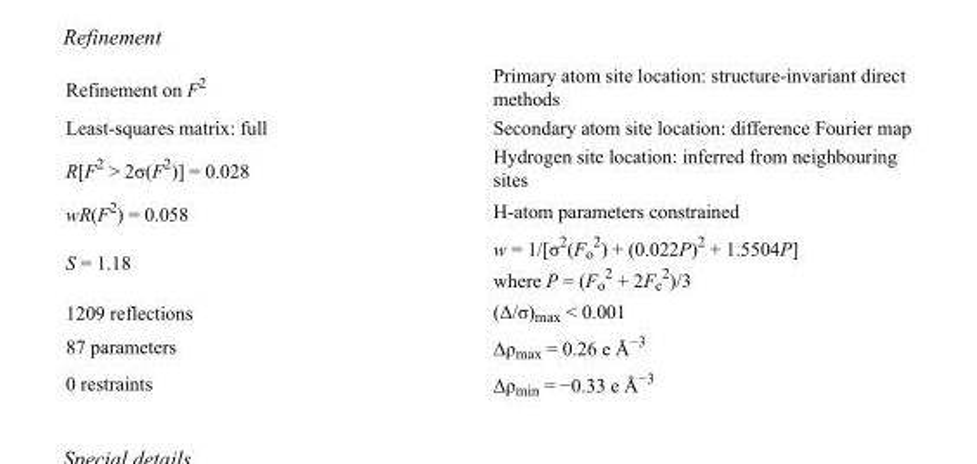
<table><tbody><tr><td>Refinement on F<sup>2</sup></td><td>Primary atom site location: structure-invariant direct methods</td></tr><tr><td>Least-squares matrix: full</td><td>Secondary atom site location: difference Fourier map</td></tr><tr><td>R[F<sup>2</sup> &gt; 2σ(F<sup>2</sup>)] = 0.028</td><td>Hydrogen site location: inferred from neighbouring sites</td></tr><tr><td>wR(F<sup>2</sup>) = 0.058</td><td>H-atom parameters constrained</td></tr><tr><td>S = 1.18</td><td>w = 1/[σ<sup>2</sup>(F<sub>o</sub> <sup>2</sup>) + (0.022P)<sup>2</sup> + 1.5504P] where P = (F<sub>o</sub> <sup>2</sup> + 2F<sub>c</sub> <sup>2</sup>)/3</td></tr><tr><td>1209 reflections</td><td>(Δ/σ)<sub>max</sub> &lt; 0.001</td></tr><tr><td>87 parameters</td><td>Δρ<sub>max</sub> = 0.26 e Å<sup>−3</sup></td></tr><tr><td>0 restraints</td><td>Δρ<sub>min</sub> = −0.33 e Å<sup>−3</sup></td></tr></tbody></table>